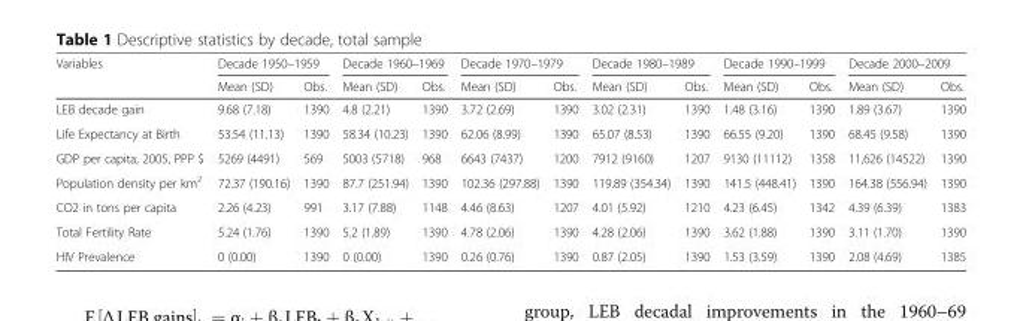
<table><thead><tr><td rowspan="2">Variables</td><td colspan="2">Decade 1950–1959</td><td colspan="2">Decade 1960–1969</td><td colspan="2">Decade 1970–1979</td><td colspan="2">Decade 1980–1989</td><td colspan="2">Decade 1990–1999</td><td colspan="2">Decade 2000–2009</td></tr><tr><td>Mean (SD)</td><td>Obs.</td><td>Mean (SD)</td><td>Obs.</td><td>Mean (SD)</td><td>Obs.</td><td>Mean (SD)</td><td>Obs.</td><td>Mean (SD)</td><td>Obs.</td><td>Mean (SD)</td><td>Obs.</td></tr></thead><tbody><tr><td>LEB decade gain</td><td>9.68 (7.18)</td><td>1390</td><td>4.8 (2.21)</td><td>1390</td><td>3.72 (2.69)</td><td>1390</td><td>3.02 (2.31)</td><td>1390</td><td>1.48 (3.16)</td><td>1390</td><td>1.89 (3.67)</td><td>1390</td></tr><tr><td>Life Expectancy at Birth</td><td>53.54 (11.13)</td><td>1390</td><td>58.34 (10.23)</td><td>1390</td><td>62.06 (8.99)</td><td>1390</td><td>65.07 (8.53)</td><td>1390</td><td>66.55 (9.20)</td><td>1390</td><td>68.45 (9.58)</td><td>1390</td></tr><tr><td>GDP per capita, 2005, PPP $</td><td>5269 (4491)</td><td>569</td><td>5003 (5718)</td><td>968</td><td>6643 (7437)</td><td>1200</td><td>7912 (9160)</td><td>1207</td><td>9130 (11112)</td><td>1358</td><td>11,626 (14522)</td><td>1390</td></tr><tr><td>Population density per km<sup>2</sup></td><td>72.37 (190.16)</td><td>1390</td><td>87.7 (251.94)</td><td>1390</td><td>102.36 (297.88)</td><td>1390</td><td>119.89 (354.34)</td><td>1390</td><td>141.5 (448.41)</td><td>1390</td><td>164.38 (556.94)</td><td>1390</td></tr><tr><td>CO2 in tons per capita</td><td>2.26 (4.23)</td><td>991</td><td>3.17 (7.88)</td><td>1148</td><td>4.46 (8.63)</td><td>1207</td><td>4.01 (5.92)</td><td>1210</td><td>4.23 (6.45)</td><td>1342</td><td>4.39 (6.39)</td><td>1383</td></tr><tr><td>Total Fertility Rate</td><td>5.24 (1.76)</td><td>1390</td><td>5.2 (1.89)</td><td>1390</td><td>4.78 (2.06)</td><td>1390</td><td>4.28 (2.06)</td><td>1390</td><td>3.62 (1.88)</td><td>1390</td><td>3.11 (1.70)</td><td>1390</td></tr><tr><td>HIV Prevalence</td><td>0 (0.00)</td><td>1390</td><td>0 (0.00)</td><td>1390</td><td>0.26 (0.76)</td><td>1390</td><td>0.87 (2.05)</td><td>1390</td><td>1.53 (3.59)</td><td>1390</td><td>2.08 (4.69)</td><td>1385</td></tr></tbody></table>